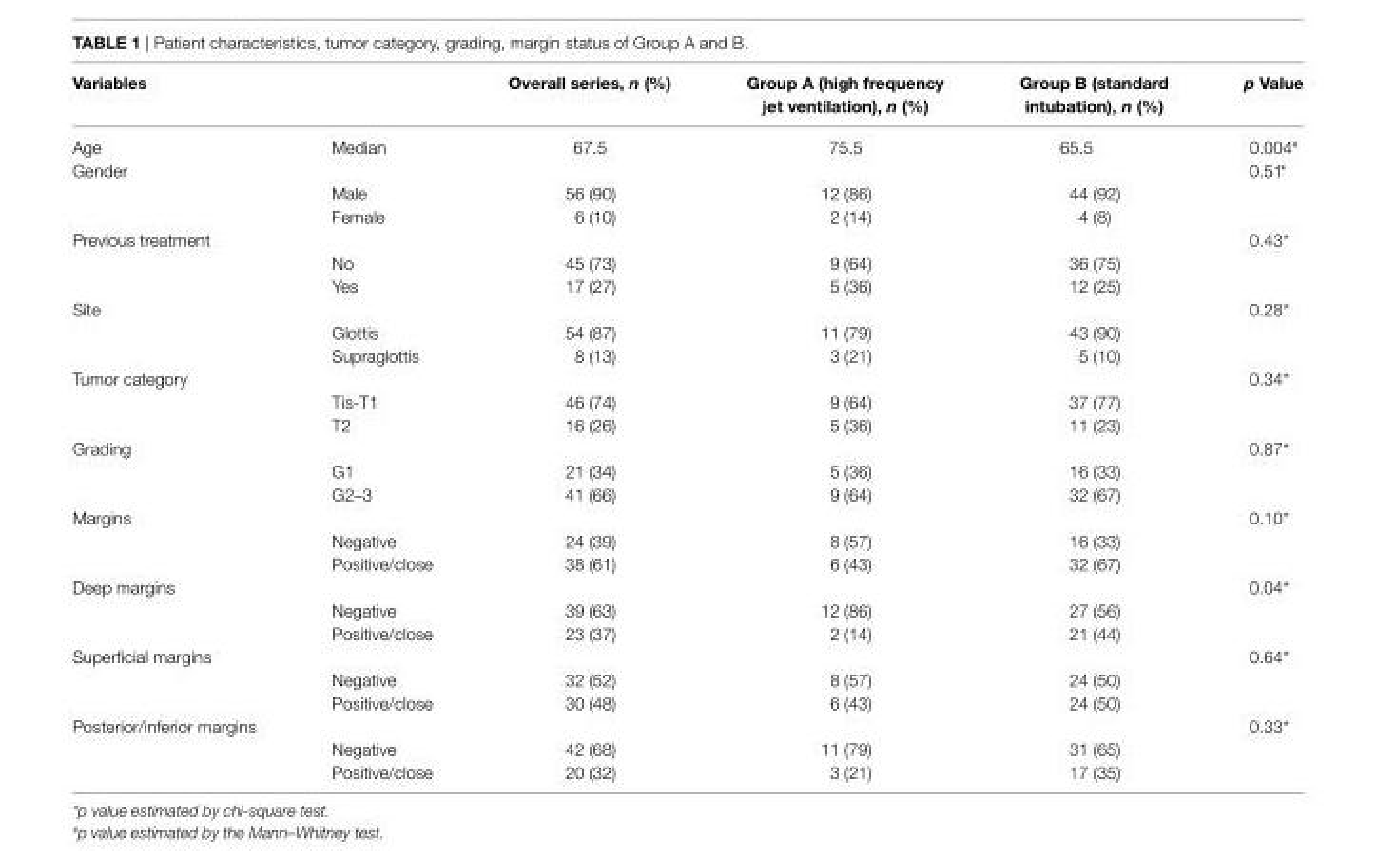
<table><thead><tr><td colspan="2">Variables</td><td rowspan="2">Overall series, n (%) 67.5</td><td rowspan="2">group a (high frequency jet ventilation), n (%) 75.5</td><td rowspan="2">group B (standard intubation), n (%) 65.5</td><td rowspan="2">p Value 0.004<sup>#</sup></td></tr><tr><td>Age</td><td>Median</td></tr></thead><tbody><tr><td rowspan="3">Gender</td><td></td><td></td><td></td><td></td><td>0.51*</td></tr><tr><td>Male</td><td>56 (90)</td><td>12 (86)</td><td>44 (92)</td><td></td></tr><tr><td>Female</td><td>6 (10)</td><td>2 (14)</td><td>4 (8)</td><td></td></tr><tr><td rowspan="3">Previous treatment</td><td></td><td></td><td></td><td></td><td>0.43*</td></tr><tr><td>No</td><td>45 (73)</td><td>9 (64)</td><td>36 (75)</td><td></td></tr><tr><td>Yes</td><td>17 (27)</td><td>5 (36)</td><td>12 (25)</td><td></td></tr><tr><td rowspan="3">Site</td><td></td><td></td><td></td><td></td><td>0.28*</td></tr><tr><td>Glottis</td><td>54 (87)</td><td>11 (79)</td><td>43 (90)</td><td></td></tr><tr><td>Supraglottis</td><td>8 (13)</td><td>3 (21)</td><td>5 (10)</td><td></td></tr><tr><td rowspan="3">Tumor category</td><td></td><td></td><td></td><td></td><td>0.34*</td></tr><tr><td>Tis-T1</td><td>46 (74)</td><td>9 (64)</td><td>37 (77)</td><td></td></tr><tr><td>T2</td><td>16 (26)</td><td>5 (36)</td><td>11 (23)</td><td></td></tr><tr><td rowspan="3">Grading</td><td></td><td></td><td></td><td></td><td>0.87*</td></tr><tr><td>G1</td><td>21 (34)</td><td>5 (36)</td><td>16 (33)</td><td></td></tr><tr><td>G2–3</td><td>41 (66)</td><td>9 (64)</td><td>32 (67)</td><td></td></tr><tr><td rowspan="3">Margins</td><td></td><td></td><td></td><td></td><td>0.10*</td></tr><tr><td>Negative</td><td>24 (39)</td><td>8 (57)</td><td>16 (33)</td><td></td></tr><tr><td>Positive/close</td><td>38 (61)</td><td>6 (43)</td><td>32 (67)</td><td></td></tr><tr><td rowspan="3">Deep margins</td><td></td><td></td><td></td><td></td><td>0.04*</td></tr><tr><td>Negative</td><td>39 (63)</td><td>12 (86)</td><td>27 (56)</td><td></td></tr><tr><td>Positive/close</td><td>23 (37)</td><td>2 (14)</td><td>21 (44)</td><td></td></tr><tr><td rowspan="3">Superficial margins</td><td></td><td></td><td></td><td></td><td>0.64*</td></tr><tr><td>Negative</td><td>32 (52)</td><td>8 (57)</td><td>24 (50)</td><td></td></tr><tr><td>Positive/close</td><td>30 (48)</td><td>6 (43)</td><td>24 (50)</td><td></td></tr><tr><td rowspan="3">Posterior/inferior margins</td><td></td><td></td><td></td><td></td><td>0.33*</td></tr><tr><td>Negative</td><td>42 (68)</td><td>11 (79)</td><td>31 (65)</td><td></td></tr><tr><td>Positive/close</td><td>20 (32)</td><td>3 (21)</td><td>17 (35)</td><td></td></tr></tbody></table>